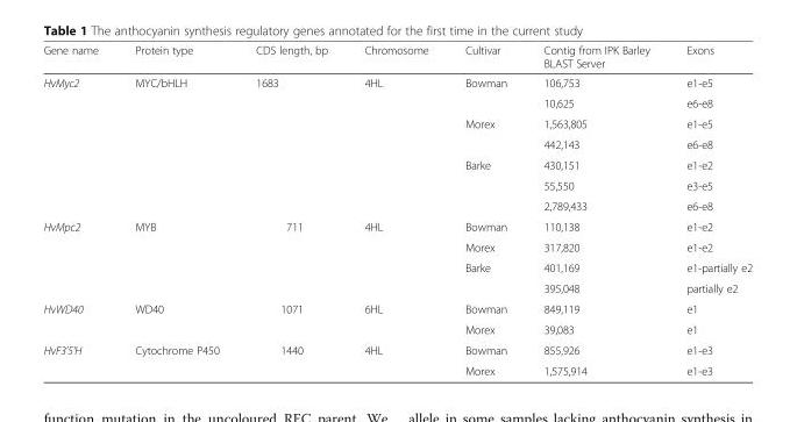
<table><thead><tr><td>Gene name</td><td>Protein type</td><td>CDS length, bp</td><td>Chromosome</td><td>Cultivar</td><td>Contig from IPK Barley BLAST Server</td><td>Exons</td></tr></thead><tbody><tr><td rowspan="7">HvMyc2</td><td>MYC/bHLH</td><td>1683</td><td>4HL</td><td>Bowman</td><td>106,753</td><td>e1-e5</td></tr><tr><td></td><td></td><td></td><td></td><td>10,625</td><td>e6-e8</td></tr><tr><td></td><td></td><td></td><td>Morex</td><td>1,563,805</td><td>e1-e5</td></tr><tr><td></td><td></td><td></td><td></td><td>442,143</td><td>e6-e8</td></tr><tr><td></td><td></td><td></td><td>Barke</td><td>430,151</td><td>e1-e2</td></tr><tr><td></td><td></td><td></td><td></td><td>55,550</td><td>e3-e5</td></tr><tr><td></td><td></td><td></td><td></td><td>2,789,433</td><td>e6-e8</td></tr><tr><td rowspan="4">HvMpc2</td><td>MYB</td><td>711</td><td>4HL</td><td>Bowman</td><td>110,138</td><td>e1-e2</td></tr><tr><td></td><td></td><td></td><td>Morex</td><td>317,820</td><td>e1-e2</td></tr><tr><td></td><td></td><td></td><td>Barke</td><td>401,169</td><td>e1-partially e2</td></tr><tr><td></td><td></td><td></td><td></td><td>395,048</td><td>partially e2</td></tr><tr><td rowspan="2">HvWD40</td><td>WD40</td><td>1071</td><td>6HL</td><td>Bowman</td><td>849,119</td><td>e1</td></tr><tr><td></td><td></td><td></td><td>Morex</td><td>39,083</td><td>e1</td></tr><tr><td rowspan="2">HvF3’5’H</td><td>Cytochrome P450</td><td>1440</td><td>4HL</td><td>Bowman</td><td>855,926</td><td>e1-e3</td></tr><tr><td></td><td></td><td></td><td>Morex</td><td>1,575,914</td><td>e1-e3</td></tr></tbody></table>